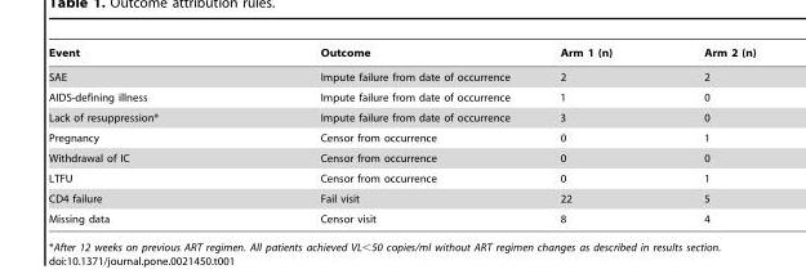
<table><thead><tr><td>Event</td><td>Outcome</td><td>Arm 1 (n)</td><td>Arm 2 (n)</td></tr></thead><tbody><tr><td>SAE</td><td>Impute failure from date of occurrence</td><td>2</td><td>2</td></tr><tr><td>AIDS-defining illness</td><td>Impute failure from date of occurrence</td><td>1</td><td>0</td></tr><tr><td>Lack of resuppression*</td><td>Impute failure from date of occurrence</td><td>3</td><td>0</td></tr><tr><td>Pregnancy</td><td>Censor from occurrence</td><td>0</td><td>1</td></tr><tr><td>Withdrawal of IC</td><td>Censor from occurrence</td><td>0</td><td>0</td></tr><tr><td>LTFU</td><td>Censor from occurrence</td><td>0</td><td>1</td></tr><tr><td>CD4 failure</td><td>Fail visit</td><td>22</td><td>5</td></tr><tr><td>Missing data</td><td>Censor visit</td><td>8</td><td>4</td></tr></tbody></table>